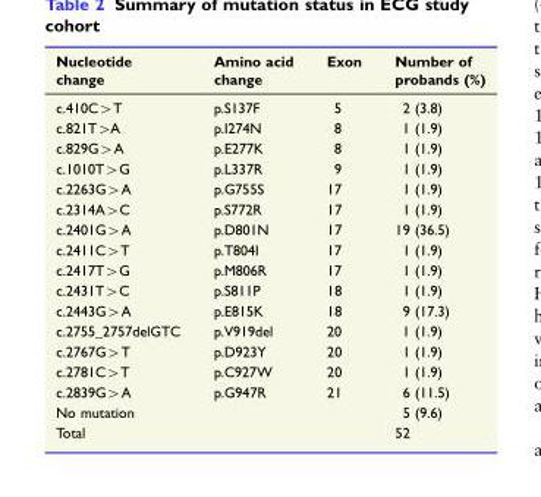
<table><thead><tr><td>Nucleotide change</td><td>Amino acid change</td><td>Exon</td><td>Number of probands (%)</td></tr></thead><tbody><tr><td>c.410C&gt;T</td><td>p.S137F</td><td>5</td><td>2 (3.8)</td></tr><tr><td>c.821T&gt;A</td><td>p.I274N</td><td>8</td><td>1 (1.9)</td></tr><tr><td>c.829G&gt;A</td><td>p.E277K</td><td>8</td><td>1 (1.9)</td></tr><tr><td>c.1010T&gt;G</td><td>p.L337R</td><td>9</td><td>1 (1.9)</td></tr><tr><td>c.2263G&gt;A</td><td>p.G755S</td><td>17</td><td>1 (1.9)</td></tr><tr><td>c.2314A&gt;C</td><td>p.S772R</td><td>17</td><td>1 (1.9)</td></tr><tr><td>c.2401G&gt;A</td><td>p.D801N</td><td>17</td><td>19 (36.5)</td></tr><tr><td>c.2411C&gt;T</td><td>p.T804I</td><td>17</td><td>1 (1.9)</td></tr><tr><td>c.2417T&gt;G</td><td>p.M806R</td><td>17</td><td>1 (1.9)</td></tr><tr><td>c.2431T&gt;C</td><td>p.S811P</td><td>18</td><td>1 (1.9)</td></tr><tr><td>c.2443G&gt;A</td><td>p.E815K</td><td>18</td><td>9 (17.3)</td></tr><tr><td>c.2755_2757delGTC</td><td>p.V919del</td><td>20</td><td>1 (1.9)</td></tr><tr><td>c.2767G&gt;T</td><td>p.D923Y</td><td>20</td><td>1 (1.9)</td></tr><tr><td>c.2781C&gt;T</td><td>p.C927W</td><td>20</td><td>1 (1.9)</td></tr><tr><td>c.2839G&gt;A</td><td>p.G947R</td><td>21</td><td>6 (11.5)</td></tr><tr><td colspan="3">No mutation</td><td>5 (9.6)</td></tr><tr><td colspan="3">Total</td><td>52</td></tr></tbody></table>